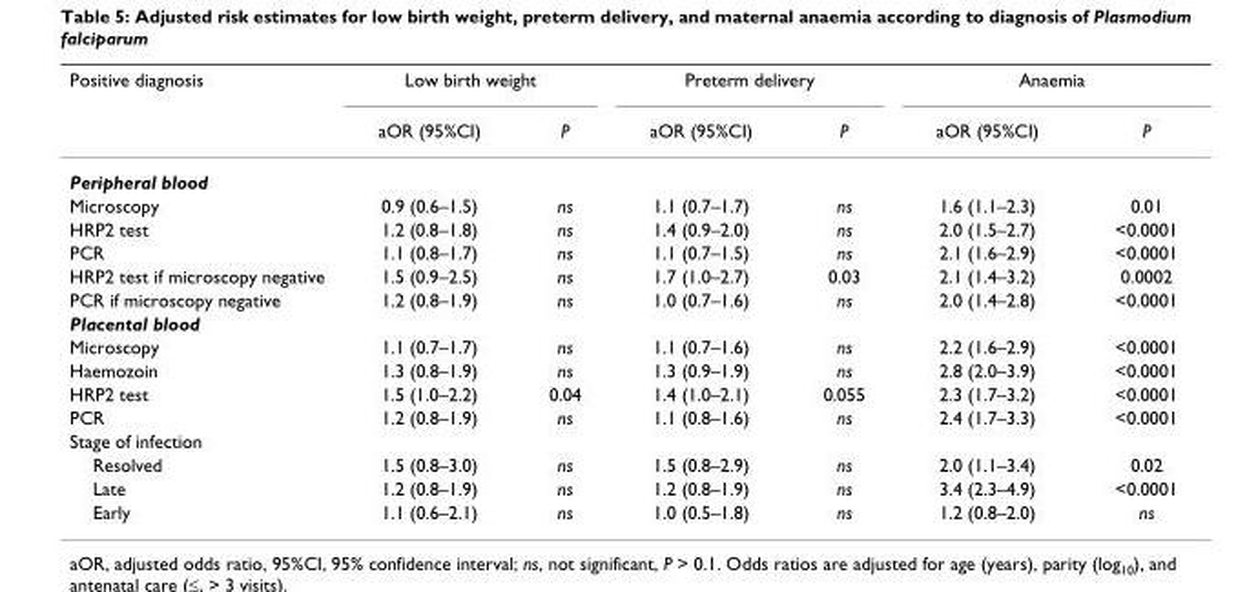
<table><thead><tr><td rowspan="2">Positive diagnosis</td><td colspan="2">Low birth weight</td><td colspan="2">Preterm delivery</td><td colspan="2">Anaemia</td></tr><tr><td>aOR (95%CI)</td><td>P</td><td>aOR (95%CI)</td><td>P</td><td>aOR (95%CI)</td><td>P</td></tr></thead><tbody><tr><td colspan="7">Peripheral blood</td></tr><tr><td>Microscopy</td><td>0.9 (0.6–1.5)</td><td>ns</td><td>1.1 (0.7–1.7)</td><td>ns</td><td>1.6 (1.1–2.3)</td><td>0.01</td></tr><tr><td>HRP2 test</td><td>1.2 (0.8–1.8)</td><td>ns</td><td>1.4 (0.9–2.0)</td><td>ns</td><td>2.0 (1.5–2.7)</td><td>&lt;0.0001</td></tr><tr><td>PCR</td><td>1.1 (0.8–1.7)</td><td>ns</td><td>1.1 (0.7–1.5)</td><td>ns</td><td>2.1 (1.6–2.9)</td><td>&lt;0.0001</td></tr><tr><td>HRP2 test if microscopy negative</td><td>1.5 (0.9–2.5)</td><td>ns</td><td>1.7 (1.0–2.7)</td><td>0.03</td><td>2.1 (1.4–3.2)</td><td>0.0002</td></tr><tr><td>PCR if microscopy negative</td><td>1.2 (0.8–1.9)</td><td>ns</td><td>1.0 (0.7–1.6)</td><td>ns</td><td>2.0 (1.4–2.8)</td><td>&lt;0.0001</td></tr><tr><td colspan="7">Placental blood</td></tr><tr><td>Microscopy</td><td>1.1 (0.7–1.7)</td><td>ns</td><td>1.1 (0.7–1.6)</td><td>ns</td><td>2.2 (1.6–2.9)</td><td>&lt;0.0001</td></tr><tr><td>Haemozoin</td><td>1.3 (0.8–1.9)</td><td>ns</td><td>1.3 (0.9–1.9)</td><td>ns</td><td>2.8 (2.0–3.9)</td><td>&lt;0.0001</td></tr><tr><td>HRP2 test</td><td>1.5 (1.0–2.2)</td><td>0.04</td><td>1.4 (1.0–2.1)</td><td>0.055</td><td>2.3 (1.7–3.2)</td><td>&lt;0.0001</td></tr><tr><td>PCR</td><td>1.2 (0.8–1.9)</td><td>ns</td><td>1.1 (0.8–1.6)</td><td>ns</td><td>2.4 (1.7–3.3)</td><td>&lt;0.0001</td></tr><tr><td colspan="7">Stage of infection</td></tr><tr><td>Resolved</td><td>1.5 (0.8–3.0)</td><td>ns</td><td>1.5 (0.8–2.9)</td><td>ns</td><td>2.0 (1.1–3.4)</td><td>0.02</td></tr><tr><td>Late</td><td>1.2 (0.8–1.9)</td><td>ns</td><td>1.2 (0.8–1.9)</td><td>ns</td><td>3.4 (2.3–4.9)</td><td>&lt;0.0001</td></tr><tr><td>Early</td><td>1.1 (0.6–2.1)</td><td>ns</td><td>1.0 (0.5–1.8)</td><td>ns</td><td>1.2 (0.8–2.0)</td><td>ns</td></tr></tbody></table>